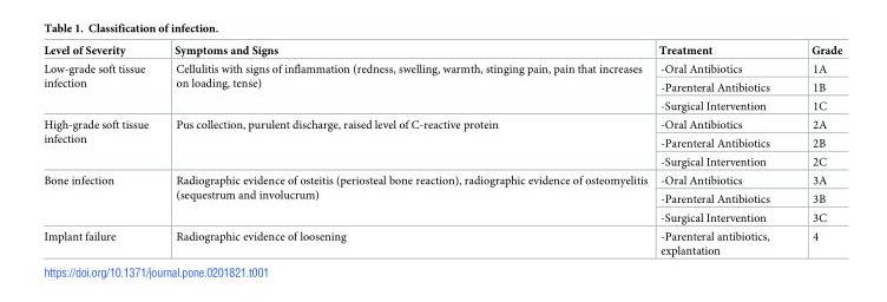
<table><thead><tr><td>Level of Severity</td><td>Symptoms and Signs</td><td>Treatment</td><td>Grade</td></tr></thead><tbody><tr><td rowspan="3">Low-grade soft tissue infection</td><td rowspan="3">Cellulitis with signs of inflammation (redness, swelling, warmth, stinging pain, pain that increases on loading, tense)</td><td>-Oral Antibiotics</td><td>1A</td></tr><tr><td>-Parenteral Antibiotics</td><td>1B</td></tr><tr><td>-Surgical Intervention</td><td>1C</td></tr><tr><td rowspan="3">High-grade soft tissue infection</td><td rowspan="3">Pus collection, purulent discharge, raised level of C-reactive protein</td><td>-Oral Antibiotics</td><td>2A</td></tr><tr><td>-Parenteral Antibiotics</td><td>2B</td></tr><tr><td>-Surgical Intervention</td><td>2C</td></tr><tr><td rowspan="3">Bone infection</td><td rowspan="3">Radiographic evidence of osteitis (periosteal bone reaction), radiographic evidence of osteomyelitis (sequestrum and involucrum)</td><td>-Oral Antibiotics</td><td>3A</td></tr><tr><td>-Parenteral Antibiotics</td><td>3B</td></tr><tr><td>-Surgical Intervention</td><td>3C</td></tr><tr><td>Implant failure</td><td>Radiographic evidence of loosening</td><td>-Parenteral antibiotics, explantation</td><td>4</td></tr></tbody></table>